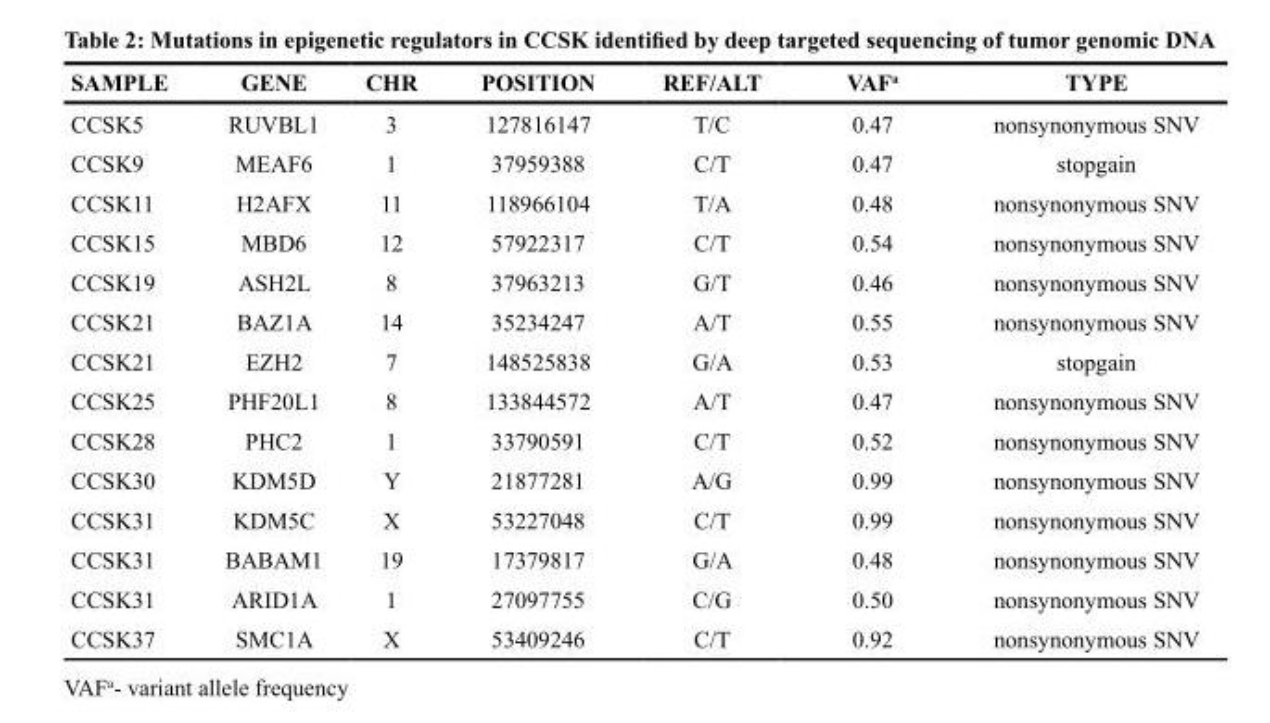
<table><thead><tr><td>SAMPLE</td><td>GENE</td><td>CHR</td><td>POSITION</td><td>REF/ALT</td><td>VAF<sup>a</sup></td><td>TYPE</td></tr></thead><tbody><tr><td>CCSK5</td><td>RUVBL1</td><td>3</td><td>127816147</td><td>T/C</td><td>0.47</td><td>nonsynonymous SNV</td></tr><tr><td>CCSK9</td><td>MEAF6</td><td>1</td><td>37959388</td><td>C/T</td><td>0.47</td><td>stopgain</td></tr><tr><td>CCSK11</td><td>H2AFX</td><td>11</td><td>118966104</td><td>T/A</td><td>0.48</td><td>nonsynonymous SNV</td></tr><tr><td>CCSK15</td><td>MBD6</td><td>12</td><td>57922317</td><td>C/T</td><td>0.54</td><td>nonsynonymous SNV</td></tr><tr><td>CCSK19</td><td>ASH2L</td><td>8</td><td>37963213</td><td>G/T</td><td>0.46</td><td>nonsynonymous SNV</td></tr><tr><td>CCSK21</td><td>BAZ1A</td><td>14</td><td>35234247</td><td>A/T</td><td>0.55</td><td>nonsynonymous SNV</td></tr><tr><td>CCSK21</td><td>EZH2</td><td>7</td><td>148525838</td><td>G/A</td><td>0.53</td><td>stopgain</td></tr><tr><td>CCSK25</td><td>PHF20L1</td><td>8</td><td>133844572</td><td>A/T</td><td>0.47</td><td>nonsynonymous SNV</td></tr><tr><td>CCSK28</td><td>PHC2</td><td>1</td><td>33790591</td><td>C/T</td><td>0.52</td><td>nonsynonymous SNV</td></tr><tr><td>CCSK30</td><td>KDM5D</td><td>Y</td><td>21877281</td><td>A/G</td><td>0.99</td><td>nonsynonymous SNV</td></tr><tr><td>CCSK31</td><td>KDM5C</td><td>X</td><td>53227048</td><td>C/T</td><td>0.99</td><td>nonsynonymous SNV</td></tr><tr><td>CCSK31</td><td>BABAM1</td><td>19</td><td>17379817</td><td>G/A</td><td>0.48</td><td>nonsynonymous SNV</td></tr><tr><td>CCSK31</td><td>ARID1A</td><td>1</td><td>27097755</td><td>C/G</td><td>0.50</td><td>nonsynonymous SNV</td></tr><tr><td>CCSK37</td><td>SMC1A</td><td>X</td><td>53409246</td><td>C/T</td><td>0.92</td><td>nonsynonymous SNV</td></tr></tbody></table>